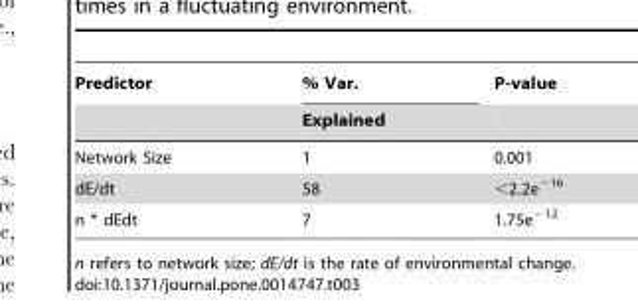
<table><thead><tr><td rowspan="2">Predictor</td><td rowspan="2">% Var. Explained</td><td rowspan="2">P-value</td></tr><tr></tr></thead><tbody><tr><td>Network Size</td><td>1</td><td>0.001</td></tr><tr><td>dE/dt</td><td>58</td><td>&lt;2.2e<sup>−16</sup></td></tr><tr><td>n * dEdt</td><td>7</td><td>1.75e<sup>−12</sup></td></tr></tbody></table>